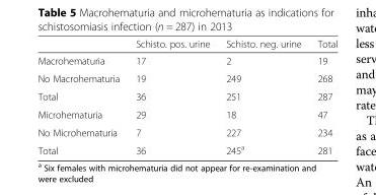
<table><thead><tr><td></td><td>Schisto. pos. urine</td><td>Schisto. neg. urine</td><td>Total</td></tr></thead><tbody><tr><td>Macrohematuria</td><td>17</td><td>2</td><td>19</td></tr><tr><td>No Macrohematuria</td><td>19</td><td>249</td><td>268</td></tr><tr><td>Total</td><td>36</td><td>251</td><td>287</td></tr><tr><td>Microhematuria</td><td>29</td><td>18</td><td>47</td></tr><tr><td>No Microhematuria</td><td>7</td><td>227</td><td>234</td></tr><tr><td>Total</td><td>36</td><td>245<sup>a</sup></td><td>281</td></tr></tbody></table>